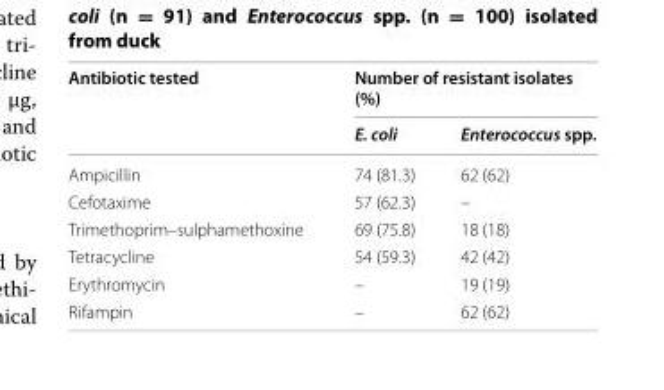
<table><thead><tr><td rowspan="2">Antibiotic tested</td><td colspan="2">Number of resistant isolates (%)</td></tr><tr><td>E. coli</td><td>Enterococcus spp.</td></tr></thead><tbody><tr><td>Ampicillin</td><td>74 (81.3)</td><td>62 (62)</td></tr><tr><td>Cefotaxime</td><td>57 (62.3)</td><td>–</td></tr><tr><td>Trimethoprim–sulphamethoxine</td><td>69 (75.8)</td><td>18 (18)</td></tr><tr><td>Tetracycline</td><td>54 (59.3)</td><td>42 (42)</td></tr><tr><td>Erythromycin</td><td>–</td><td>19 (19)</td></tr><tr><td>Rifampin</td><td>–</td><td>62 (62)</td></tr></tbody></table>